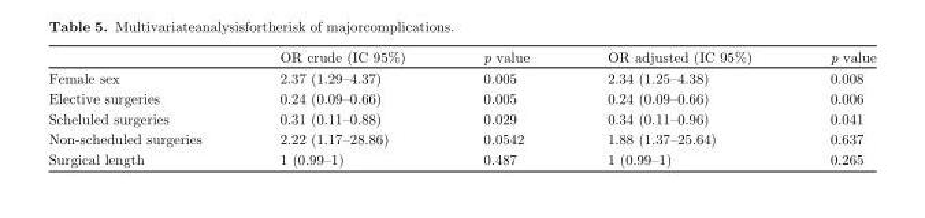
<table><thead><tr><td></td><td>OR crude (IC 95%)</td><td>p value</td><td>OR adjusted (IC 95%)</td><td>p value</td></tr></thead><tbody><tr><td>Female sex</td><td>2.37 (1.29–4.37)</td><td>0.005</td><td>2.34 (1.25–4.38)</td><td>0.008</td></tr><tr><td>Elective surgeries</td><td>0.24 (0.09–0.66)</td><td>0.005</td><td>0.24 (0.09–0.66)</td><td>0.006</td></tr><tr><td>Scheluled surgeries</td><td>0.31 (0.11–0.88)</td><td>0.029</td><td>0.34 (0.11–0.96)</td><td>0.041</td></tr><tr><td>Non-scheduled surgeries</td><td>2.22 (1.17–28.86)</td><td>0.0542</td><td>1.88 (1.37–25.64)</td><td>0.637</td></tr><tr><td>Surgical length</td><td>1 (0.99–1)</td><td>0.487</td><td>1 (0.99–1)</td><td>0.265</td></tr></tbody></table>